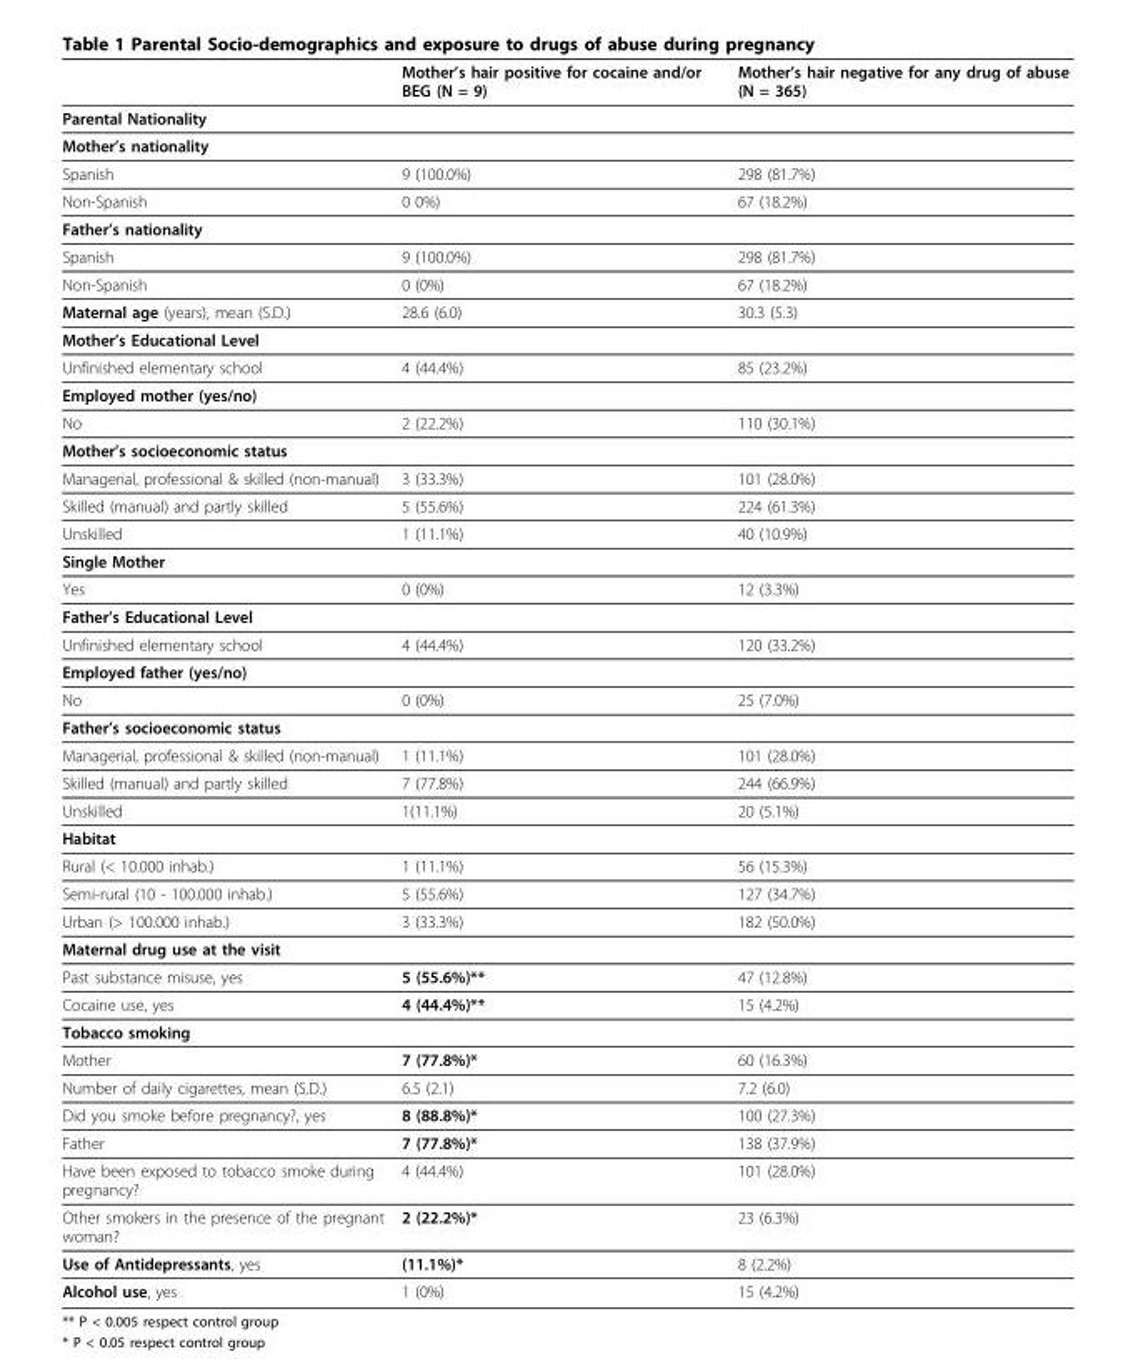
<table><thead><tr><td></td><td>Mother’s hair positive for cocaine and/or BEG (N = 9)</td><td>Mother’s hair negative for any drug of abuse (N = 365)</td></tr></thead><tbody><tr><td colspan="3">Parental Nationality</td></tr><tr><td colspan="3">Mother’s nationality</td></tr><tr><td>Spanish</td><td>9 (100.0%)</td><td>298 (81.7%)</td></tr><tr><td>Non-Spanish</td><td>0 0%)</td><td>67 (18.2%)</td></tr><tr><td colspan="3">Father’s nationality</td></tr><tr><td>Spanish</td><td>9 (100.0%)</td><td>298 (81.7%)</td></tr><tr><td>Non-Spanish</td><td>0 (0%)</td><td>67 (18.2%)</td></tr><tr><td>Maternal age (years), mean (S.D.)</td><td>28.6 (6.0)</td><td>30.3 (5.3)</td></tr><tr><td colspan="3">Mother’s Educational Level</td></tr><tr><td>Unfinished elementary school</td><td>4 (44.4%)</td><td>85 (23.2%)</td></tr><tr><td colspan="3">Employed mother (yes/no)</td></tr><tr><td>No</td><td>2 (22.2%)</td><td>110 (30.1%)</td></tr><tr><td colspan="3">Mother’s socioeconomic status</td></tr><tr><td>Managerial, professional &amp; skilled (non-manual)</td><td>3 (33.3%)</td><td>101 (28.0%)</td></tr><tr><td>Skilled (manual) and partly skilled</td><td>5 (55.6%)</td><td>224 (61.3%)</td></tr><tr><td>Unskilled</td><td>1 (11.1%)</td><td>40 (10.9%)</td></tr><tr><td colspan="3">Single Mother</td></tr><tr><td>Yes</td><td>0 (0%)</td><td>12 (3.3%)</td></tr><tr><td colspan="3">Father’s Educational Level</td></tr><tr><td>Unfinished elementary school</td><td>4 (44.4%)</td><td>120 (33.2%)</td></tr><tr><td colspan="3">Employed father (yes/no)</td></tr><tr><td>No</td><td>0 (0%)</td><td>25 (7.0%)</td></tr><tr><td colspan="3">Father’s socioeconomic status</td></tr><tr><td>Managerial, professional &amp; skilled (non-manual)</td><td>1 (11.1%)</td><td>101 (28.0%)</td></tr><tr><td>Skilled (manual) and partly skilled</td><td>7 (77.8%)</td><td>244 (66.9%)</td></tr><tr><td>Unskilled</td><td>1(11.1%)</td><td>20 (5.1%)</td></tr><tr><td colspan="3">Habitat</td></tr><tr><td>Rural (&lt; 10.000 inhab.)</td><td>1 (11.1%)</td><td>56 (15.3%)</td></tr><tr><td>Semi-rural (10 - 100.000 inhab.)</td><td>5 (55.6%)</td><td>127 (34.7%)</td></tr><tr><td>Urban (&gt; 100.000 inhab.)</td><td>3 (33.3%)</td><td>182 (50.0%)</td></tr><tr><td colspan="3">Maternal drug use at the visit</td></tr><tr><td>Past substance misuse, yes</td><td>5 (55.6%)**</td><td>47 (12.8%)</td></tr><tr><td>Cocaine use, yes</td><td>4 (44.4%)**</td><td>15 (4.2%)</td></tr><tr><td colspan="3">Tobacco smoking</td></tr><tr><td>Mother</td><td>7 (77.8%)*</td><td>60 (16.3%)</td></tr><tr><td>Number of daily cigarettes, mean (S.D.)</td><td>6.5 (2.1)</td><td>7.2 (6.0)</td></tr><tr><td>Did you smoke before pregnancy?, yes</td><td>8 (88.8%)*</td><td>100 (27.3%)</td></tr><tr><td>Father</td><td>7 (77.8%)*</td><td>138 (37.9%)</td></tr><tr><td>Have been exposed to tobacco smoke during pregnancy?</td><td>4 (44.4%)</td><td>101 (28.0%)</td></tr><tr><td>Other smokers in the presence of the pregnant woman?</td><td>2 (22.2%)*</td><td>23 (6.3%)</td></tr><tr><td>Use of Antidepressants, yes</td><td>(11.1%)*</td><td>8 (2.2%)</td></tr><tr><td>Alcohol use, yes</td><td>1 (0%)</td><td>15 (4.2%)</td></tr></tbody></table>